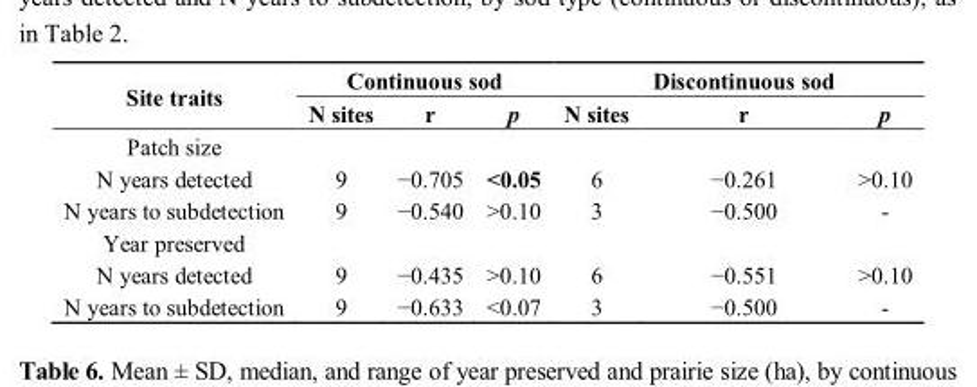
<table><thead><tr><td rowspan="2">Site traits</td><td colspan="3">Continuous sod</td><td rowspan="2">N sites</td><td rowspan="2">Discontinuous sod r</td><td rowspan="2">p</td></tr><tr><td>N sites</td><td>r</td><td>p</td></tr></thead><tbody><tr><td colspan="7">Patch size</td></tr><tr><td>N years detected</td><td>9</td><td>−0.705</td><td>&lt;0.05</td><td>6</td><td>−0.261</td><td>&gt;0.10</td></tr><tr><td>N years to subdetection</td><td>9</td><td>−0.540</td><td>&gt;0.10</td><td>3</td><td>−0.500</td><td>-</td></tr><tr><td colspan="7">Year preserved</td></tr><tr><td>N years detected</td><td>9</td><td>−0.435</td><td>&gt;0.10</td><td>6</td><td>−0.551</td><td>&gt;0.10</td></tr><tr><td>N years to subdetection</td><td>9</td><td>−0.633</td><td>&lt;0.07</td><td>3</td><td>−0.500</td><td>-</td></tr></tbody></table>